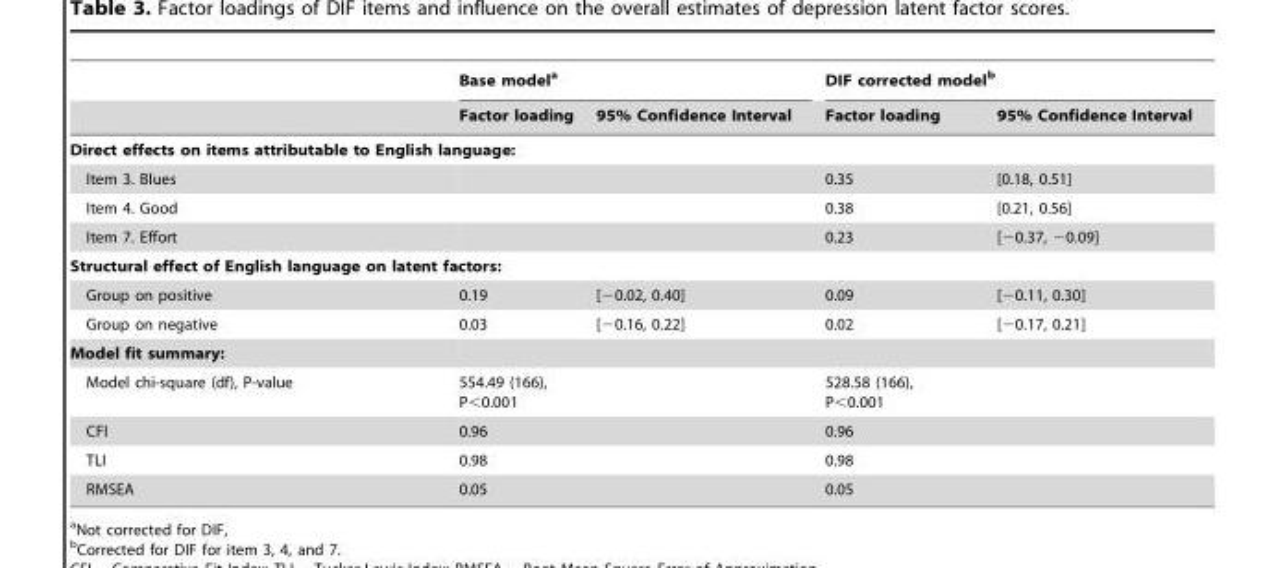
<table><thead><tr><td rowspan="2"></td><td colspan="2">Base model<sup>a</sup></td><td colspan="2">DIF corrected model<sup>b</sup></td></tr><tr><td>Factor loading</td><td>95% Confidence Interval</td><td>Factor loading</td><td>95% Confidence Interval</td></tr></thead><tbody><tr><td colspan="5">Direct effects on items attributable to English language:</td></tr><tr><td>Item 3. Blues</td><td></td><td></td><td>0.35</td><td>[0.18, 0.51]</td></tr><tr><td>Item 4. Good</td><td></td><td></td><td>0.38</td><td>[0.21, 0.56]</td></tr><tr><td>Item 7. Effort</td><td></td><td></td><td>0.23</td><td>[−0.37, −0.09]</td></tr><tr><td colspan="5">Structural effect of English language on latent factors:</td></tr><tr><td>Group on positive</td><td>0.19</td><td>[−0.02, 0.40]</td><td>0.09</td><td>[−0.11, 0.30]</td></tr><tr><td>Group on negative</td><td>0.03</td><td>[−0.16, 0.22]</td><td>0.02</td><td>[−0.17, 0.21]</td></tr><tr><td colspan="5">Model fit summary:</td></tr><tr><td>Model chi-square (df), P-value</td><td colspan="2">554.49 (166), P&lt;0.001</td><td colspan="2">528.58 (166), P&lt;0.001</td></tr><tr><td>CFI</td><td colspan="2">0.96</td><td colspan="2">0.96</td></tr><tr><td>TLI</td><td colspan="2">0.98</td><td colspan="2">0.98</td></tr><tr><td>RMSEA</td><td colspan="2">0.05</td><td colspan="2">0.05</td></tr></tbody></table>